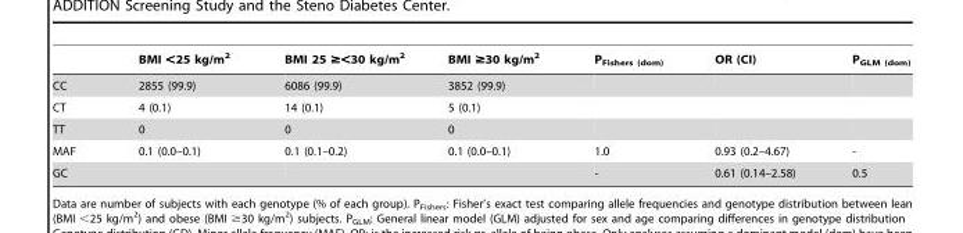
<table><thead><tr><td></td><td>BMI &lt;25 kg/m<sup>2</sup></td><td>BMI 25 ≥&lt;30 kg/m<sup>2</sup></td><td>BMI ≥30 kg/m<sup>2</sup></td><td>P<sub>Fishers (dom)</sub></td><td>OR (CI)</td><td>P<sub>GLM (dom)</sub></td></tr></thead><tbody><tr><td>CC</td><td>2855 (99.9)</td><td>6086 (99.9)</td><td>3852 (99.9)</td><td></td><td></td><td></td></tr><tr><td>CT</td><td>4 (0.1)</td><td>14 (0.1)</td><td>5 (0.1)</td><td></td><td></td><td></td></tr><tr><td>TT</td><td>0</td><td>0</td><td>0</td><td></td><td></td><td></td></tr><tr><td>MAF</td><td>0.1 (0.0–0.1)</td><td>0.1 (0.1–0.2)</td><td>0.1 (0.0–0.1)</td><td>1.0</td><td>0.93 (0.2–4.67)</td><td>-</td></tr><tr><td>GC</td><td></td><td></td><td></td><td>-</td><td>0.61 (0.14–2.58)</td><td>0.5</td></tr></tbody></table>